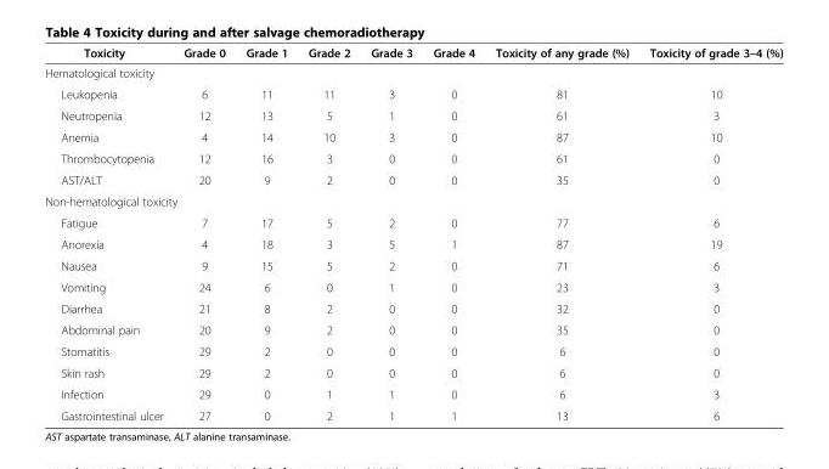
<table><thead><tr><td>Toxicity</td><td>Grade 0</td><td>Grade 1</td><td>Grade 2</td><td>Grade 3</td><td>Grade 4</td><td>Toxicity of any grade (%)</td><td>Toxicity of grade 3–4 (%)</td></tr></thead><tbody><tr><td colspan="8">Hematological toxicity</td></tr><tr><td>Leukopenia</td><td>6</td><td>11</td><td>11</td><td>3</td><td>0</td><td>81</td><td>10</td></tr><tr><td>Neutropenia</td><td>12</td><td>13</td><td>5</td><td>1</td><td>0</td><td>61</td><td>3</td></tr><tr><td>Anemia</td><td>4</td><td>14</td><td>10</td><td>3</td><td>0</td><td>87</td><td>10</td></tr><tr><td>Thrombocytopenia</td><td>12</td><td>16</td><td>3</td><td>0</td><td>0</td><td>61</td><td>0</td></tr><tr><td>AST/ALT</td><td>20</td><td>9</td><td>2</td><td>0</td><td>0</td><td>35</td><td>0</td></tr><tr><td colspan="8">Non-hematological toxicity</td></tr><tr><td>Fatigue</td><td>7</td><td>17</td><td>5</td><td>2</td><td>0</td><td>77</td><td>6</td></tr><tr><td>Anorexia</td><td>4</td><td>18</td><td>3</td><td>5</td><td>1</td><td>87</td><td>19</td></tr><tr><td>Nausea</td><td>9</td><td>15</td><td>5</td><td>2</td><td>0</td><td>71</td><td>6</td></tr><tr><td>Vomiting</td><td>24</td><td>6</td><td>0</td><td>1</td><td>0</td><td>23</td><td>3</td></tr><tr><td>Diarrhea</td><td>21</td><td>8</td><td>2</td><td>0</td><td>0</td><td>32</td><td>0</td></tr><tr><td>Abdominal pain</td><td>20</td><td>9</td><td>2</td><td>0</td><td>0</td><td>35</td><td>0</td></tr><tr><td>Stomatitis</td><td>29</td><td>2</td><td>0</td><td>0</td><td>0</td><td>6</td><td>0</td></tr><tr><td>Skin rash</td><td>29</td><td>2</td><td>0</td><td>0</td><td>0</td><td>6</td><td>0</td></tr><tr><td>Infection</td><td>29</td><td>0</td><td>1</td><td>1</td><td>0</td><td>6</td><td>3</td></tr><tr><td>Gastrointestinal ulcer</td><td>27</td><td>0</td><td>2</td><td>1</td><td>1</td><td>13</td><td>6</td></tr></tbody></table>